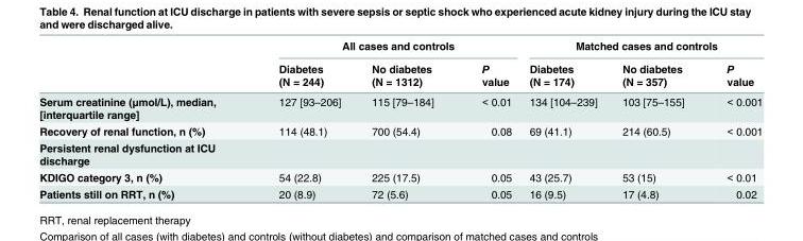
<table><thead><tr><td rowspan="2"></td><td colspan="3">All cases and controls</td><td colspan="3">Matched cases and controls</td></tr><tr><td>Diabetes (N = 244)</td><td>No diabetes (N = 1312)</td><td>P value</td><td>Diabetes (N = 174)</td><td>No diabetes (N = 357)</td><td>P value</td></tr></thead><tbody><tr><td>Serum creatinine (μmol/L), median, [interquartile range]</td><td>127 [93–206]</td><td>115 [79–184]</td><td>&lt; 0.01</td><td>134 [104–239]</td><td>103 [75–155]</td><td>&lt; 0.001</td></tr><tr><td>Recovery of renal function, n (%)</td><td>114 (48.1)</td><td>700 (54.4)</td><td>0.08</td><td>69 (41.1)</td><td>214 (60.5)</td><td>&lt; 0.001</td></tr><tr><td colspan="7">Persistent renal dysfunction at ICU discharge</td></tr><tr><td>KDIGO category 3, n (%)</td><td>54 (22.8)</td><td>225 (17.5)</td><td>0.05</td><td>43 (25.7)</td><td>53 (15)</td><td>&lt; 0.01</td></tr><tr><td>Patients still on RRT, n (%)</td><td>20 (8.9)</td><td>72 (5.6)</td><td>0.05</td><td>16 (9.5)</td><td>17 (4.8)</td><td>0.02</td></tr></tbody></table>